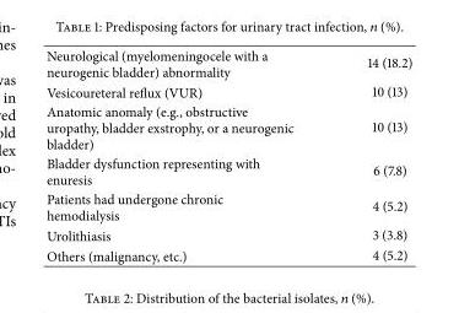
<table><tbody><tr><td>Neurological (myelomeningocele with a neurogenic bladder) abnormality</td><td>14 (18.2)</td></tr><tr><td>Vesicoureteral reflux (VUR)</td><td>10 (13)</td></tr><tr><td>Anatomic anomaly (e.g., obstructive uropathy, bladder exstrophy, or a neurogenic bladder)</td><td>10 (13)</td></tr><tr><td>Bladder dysfunction representing with enuresis</td><td>6 (7.8)</td></tr><tr><td>Patients had undergone chronic hemodialysis</td><td>4 (5.2)</td></tr><tr><td>Urolithiasis</td><td>3 (3.8)</td></tr><tr><td>Others (malignancy, etc.)</td><td>4 (5.2)</td></tr></tbody></table>